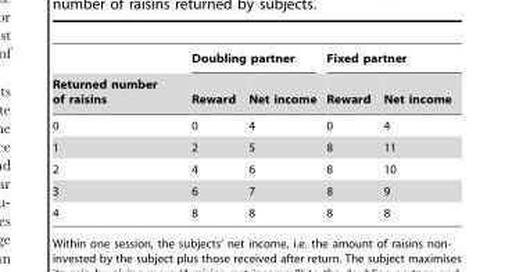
<table><thead><tr><td rowspan="2">Returned number of raisins</td><td colspan="2">Doubling partner</td><td colspan="2">Fixed partner</td></tr><tr><td>Reward</td><td>Net income</td><td>Reward</td><td>Net income</td></tr></thead><tbody><tr><td>0</td><td>0</td><td>4</td><td>0</td><td>4</td></tr><tr><td>1</td><td>2</td><td>5</td><td>8</td><td>11</td></tr><tr><td>2</td><td>4</td><td>6</td><td>8</td><td>10</td></tr><tr><td>3</td><td>6</td><td>7</td><td>8</td><td>9</td></tr><tr><td>4</td><td>8</td><td>8</td><td>8</td><td>8</td></tr></tbody></table>